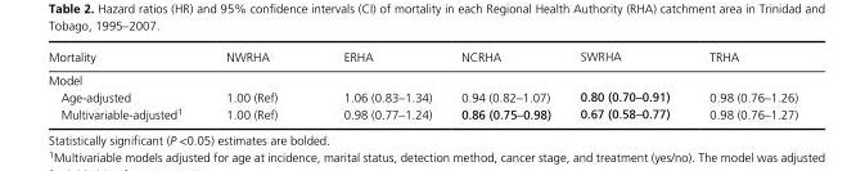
<table><thead><tr><td>Mortality</td><td>NWRHA</td><td>ERHA</td><td>NCRHA</td><td>SWRHA</td><td>TRHA</td></tr></thead><tbody><tr><td colspan="6">Model</td></tr><tr><td>Age- adjusted</td><td>1.00 (Ref)</td><td>1.06 (0.83–1.34)</td><td>0.94 (0.82–1.07)</td><td>0.80 (0.70–0.91)</td><td>0.98 (0.76–1.26)</td></tr><tr><td>Multivariable- adjusted<sup>1</sup></td><td>1.00 (Ref)</td><td>0.98 (0.77–1.24)</td><td>0.86 (0.75–0.98)</td><td>0.67 (0.58–0.77)</td><td>0.98 (0.76–1.27)</td></tr></tbody></table>